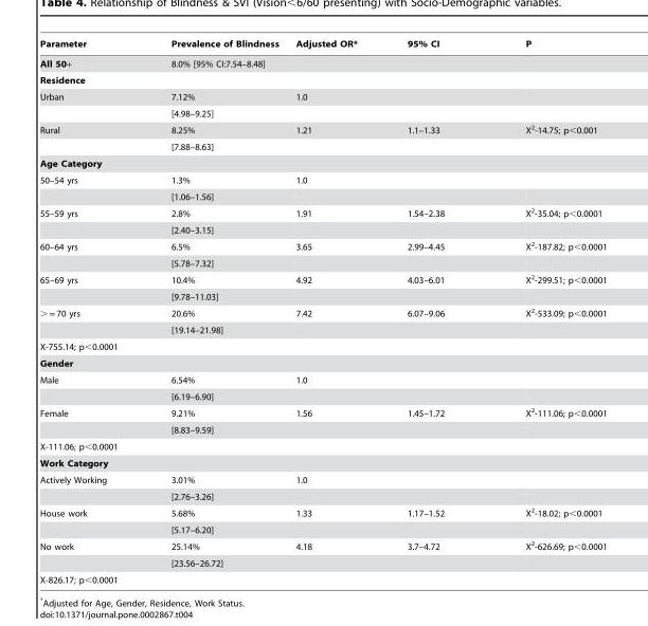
<table><thead><tr><td>Parameter</td><td>Prevalence of Blindness</td><td>Adjusted OR*</td><td>95% CI</td><td>P</td></tr></thead><tbody><tr><td>All 50+</td><td colspan="4">8.0% [95% CI:7.54–8.48]</td></tr><tr><td colspan="5">Residence</td></tr><tr><td rowspan="2">Urban</td><td>7.12%</td><td>1.0</td><td></td><td></td></tr><tr><td>[4.98–9.25]</td><td></td><td></td><td></td></tr><tr><td rowspan="2">Rural</td><td>8.25%</td><td>1.21</td><td>1.1–1.33</td><td>X<sup>2</sup>-14.75; p&lt;0.001</td></tr><tr><td>[7.88–8.63]</td><td></td><td></td><td></td></tr><tr><td colspan="5">Age Category</td></tr><tr><td rowspan="2">50–54 yrs</td><td>1.3%</td><td>1.0</td><td></td><td></td></tr><tr><td>[1.06–1.56]</td><td></td><td></td><td></td></tr><tr><td rowspan="2">55–59 yrs</td><td>2.8%</td><td>1.91</td><td>1.54–2.38</td><td>X<sup>2</sup>-35.04; p&lt;0.0001</td></tr><tr><td>[2.40–3.15]</td><td></td><td></td><td></td></tr><tr><td rowspan="2">60–64 yrs</td><td>6.5%</td><td>3.65</td><td>2.99–4.45</td><td>X<sup>2</sup>-187.82; p&lt;0.0001</td></tr><tr><td>[5.78–7.32]</td><td></td><td></td><td></td></tr><tr><td rowspan="2">65–69 yrs</td><td>10.4%</td><td>4.92</td><td>4.03–6.01</td><td>X<sup>2</sup>-299.51; p&lt;0.0001</td></tr><tr><td>[9.78–11.03]</td><td></td><td></td><td></td></tr><tr><td rowspan="2">&gt; = 70 yrs</td><td>20.6%</td><td>7.42</td><td>6.07–9.06</td><td>X<sup>2</sup>-533.09; p&lt;0.0001</td></tr><tr><td>[19.14–21.98]</td><td></td><td></td><td></td></tr><tr><td colspan="5">X-755.14; p&lt;0.0001</td></tr><tr><td colspan="5">Gender</td></tr><tr><td rowspan="2">Male</td><td>6.54%</td><td>1.0</td><td></td><td></td></tr><tr><td>[6.19–6.90]</td><td></td><td></td><td></td></tr><tr><td rowspan="2">Female</td><td>9.21%</td><td>1.56</td><td>1.45–1.72</td><td>X<sup>2</sup>-111.06; p&lt;0.0001</td></tr><tr><td>[8.83–9.59]</td><td></td><td></td><td></td></tr><tr><td colspan="5">X-111.06; p&lt;0.0001</td></tr><tr><td colspan="5">Work Category</td></tr><tr><td rowspan="2">Actively Working</td><td>3.01%</td><td>1.0</td><td></td><td></td></tr><tr><td>[2.76–3.26]</td><td></td><td></td><td></td></tr><tr><td rowspan="2">House work</td><td>5.68%</td><td>1.33</td><td>1.17–1.52</td><td>X<sup>2</sup>-18.02; p&lt;0.0001</td></tr><tr><td>[5.17–6.20]</td><td></td><td></td><td></td></tr><tr><td rowspan="2">No work</td><td>25.14%</td><td>4.18</td><td>3.7–4.72</td><td>X<sup>2</sup>-626.69; p&lt;0.0001</td></tr><tr><td>[23.56–26.72]</td><td></td><td></td><td></td></tr><tr><td colspan="5">X-826.17; p&lt;0.0001</td></tr></tbody></table>